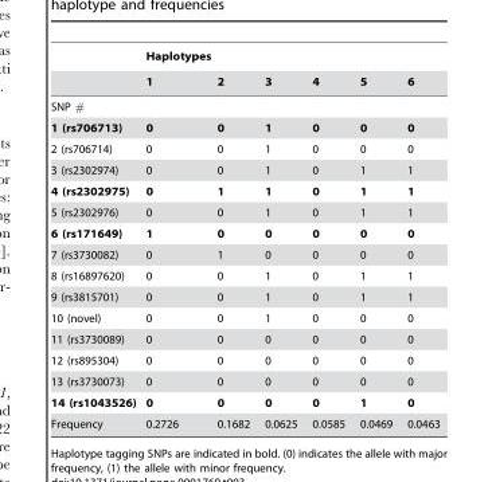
<table><thead><tr><td rowspan="2"></td><td rowspan="2">Haplotypes 1</td><td rowspan="2">2</td><td rowspan="2">3</td><td rowspan="2">4</td><td rowspan="2">5</td><td rowspan="2">6</td></tr><tr></tr></thead><tbody><tr><td colspan="7">SNP #</td></tr><tr><td>1 (rs706713)</td><td>0</td><td>0</td><td>1</td><td>0</td><td>0</td><td>0</td></tr><tr><td>2 (rs706714)</td><td>0</td><td>0</td><td>1</td><td>0</td><td>0</td><td>0</td></tr><tr><td>3 (rs2302974)</td><td>0</td><td>0</td><td>1</td><td>0</td><td>1</td><td>1</td></tr><tr><td>4 (rs2302975)</td><td>0</td><td>1</td><td>1</td><td>0</td><td>1</td><td>1</td></tr><tr><td>5 (rs2302976)</td><td>0</td><td>0</td><td>1</td><td>0</td><td>1</td><td>1</td></tr><tr><td>6 (rs171649)</td><td>1</td><td>0</td><td>0</td><td>0</td><td>0</td><td>0</td></tr><tr><td>7 (rs3730082)</td><td>0</td><td>1</td><td>0</td><td>0</td><td>0</td><td>0</td></tr><tr><td>8 (rs16897620)</td><td>0</td><td>0</td><td>1</td><td>0</td><td>1</td><td>1</td></tr><tr><td>9 (rs3815701)</td><td>0</td><td>0</td><td>1</td><td>0</td><td>1</td><td>1</td></tr><tr><td>10 (novel)</td><td>0</td><td>0</td><td>1</td><td>0</td><td>0</td><td>0</td></tr><tr><td>11 (rs3730089)</td><td>0</td><td>0</td><td>0</td><td>0</td><td>0</td><td>0</td></tr><tr><td>12 (rs895304)</td><td>0</td><td>0</td><td>0</td><td>0</td><td>0</td><td>0</td></tr><tr><td>13 (rs3730073)</td><td>0</td><td>0</td><td>0</td><td>0</td><td>0</td><td>0</td></tr><tr><td>14 (rs1043526)</td><td>0</td><td>0</td><td>0</td><td>0</td><td>1</td><td>0</td></tr><tr><td>Frequency</td><td>0.2726</td><td>0.1682</td><td>0.0625</td><td>0.0585</td><td>0.0469</td><td>0.0463</td></tr></tbody></table>